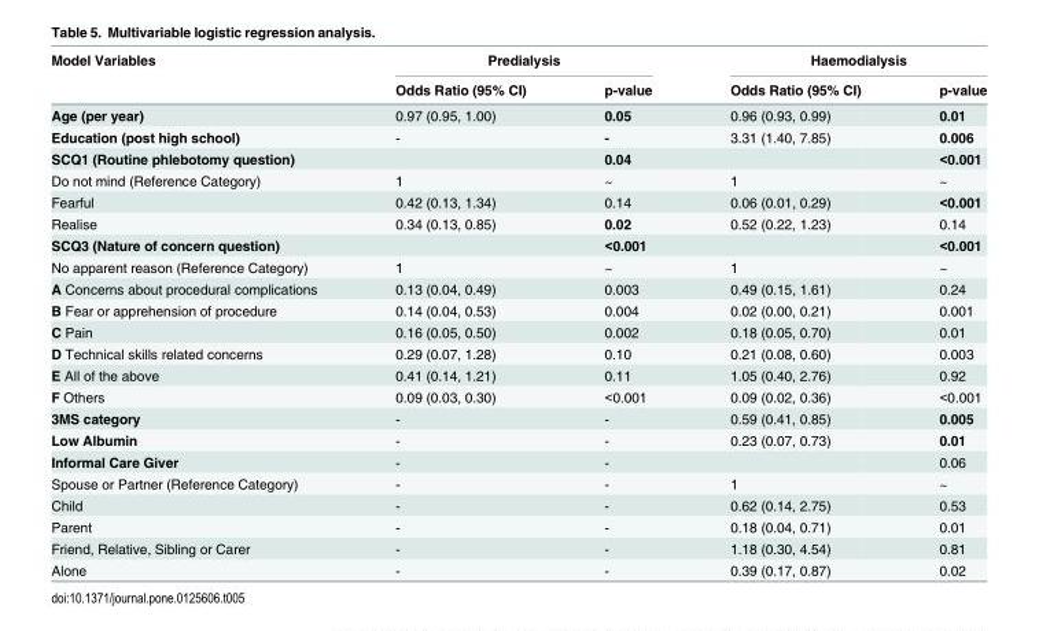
<table><thead><tr><td rowspan="2">Model Variables</td><td colspan="2">Predialysis</td><td colspan="2">Haemodialysis</td></tr><tr><td>Odds Ratio (95% CI)</td><td>p-value</td><td>Odds Ratio (95% CI)</td><td>p-value</td></tr></thead><tbody><tr><td>Age (per year)</td><td>0.97 (0.95, 1.00)</td><td>0.05</td><td>0.96 (0.93, 0.99)</td><td>0.01</td></tr><tr><td>Education (post high school)</td><td>-</td><td>-</td><td>3.31 (1.40, 7.85)</td><td>0.006</td></tr><tr><td>SCQ1 (Routine phlebotomy question)</td><td></td><td>0.04</td><td></td><td>&lt;0.001</td></tr><tr><td>Do not mind (Reference Category)</td><td>1</td><td>~</td><td>1</td><td>~</td></tr><tr><td>Fearful</td><td>0.42 (0.13, 1.34)</td><td>0.14</td><td>0.06 (0.01, 0.29)</td><td>&lt;0.001</td></tr><tr><td>Realise</td><td>0.34 (0.13, 0.85)</td><td>0.02</td><td>0.52 (0.22, 1.23)</td><td>0.14</td></tr><tr><td>SCQ3 (Nature of concern question)</td><td></td><td>&lt;0.001</td><td></td><td>&lt;0.001</td></tr><tr><td>No apparent reason (Reference Category)</td><td>1</td><td>~</td><td>1</td><td>~</td></tr><tr><td>A Concerns about procedural complications</td><td>0.13 (0.04, 0.49)</td><td>0.003</td><td>0.49 (0.15, 1.61)</td><td>0.24</td></tr><tr><td>B Fear or apprehension of procedure</td><td>0.14 (0.04, 0.53)</td><td>0.004</td><td>0.02 (0.00, 0.21)</td><td>0.001</td></tr><tr><td>C Pain</td><td>0.16 (0.05, 0.50)</td><td>0.002</td><td>0.18 (0.05, 0.70)</td><td>0.01</td></tr><tr><td>D Technical skills related concerns</td><td>0.29 (0.07, 1.28)</td><td>0.10</td><td>0.21 (0.08, 0.60)</td><td>0.003</td></tr><tr><td>E All of the above</td><td>0.41 (0.14, 1.21)</td><td>0.11</td><td>1.05 (0.40, 2.76)</td><td>0.92</td></tr><tr><td>F Others</td><td>0.09 (0.03, 0.30)</td><td>&lt;0.001</td><td>0.09 (0.02, 0.36)</td><td>&lt;0.001</td></tr><tr><td>3MS category</td><td>-</td><td>-</td><td>0.59 (0.41, 0.85)</td><td>0.005</td></tr><tr><td>Low Albumin</td><td>-</td><td>-</td><td>0.23 (0.07, 0.73)</td><td>0.01</td></tr><tr><td>Informal Care Giver</td><td>-</td><td>-</td><td></td><td>0.06</td></tr><tr><td>Spouse or Partner (Reference Category)</td><td>-</td><td>-</td><td>1</td><td>~</td></tr><tr><td>Child</td><td>-</td><td>-</td><td>0.62 (0.14, 2.75)</td><td>0.53</td></tr><tr><td>Parent</td><td>-</td><td>-</td><td>0.18 (0.04, 0.71)</td><td>0.01</td></tr><tr><td>Friend, Relative, Sibling or Carer</td><td>-</td><td>-</td><td>1.18 (0.30, 4.54)</td><td>0.81</td></tr><tr><td>Alone</td><td>-</td><td>-</td><td>0.39 (0.17, 0.87)</td><td>0.02</td></tr></tbody></table>